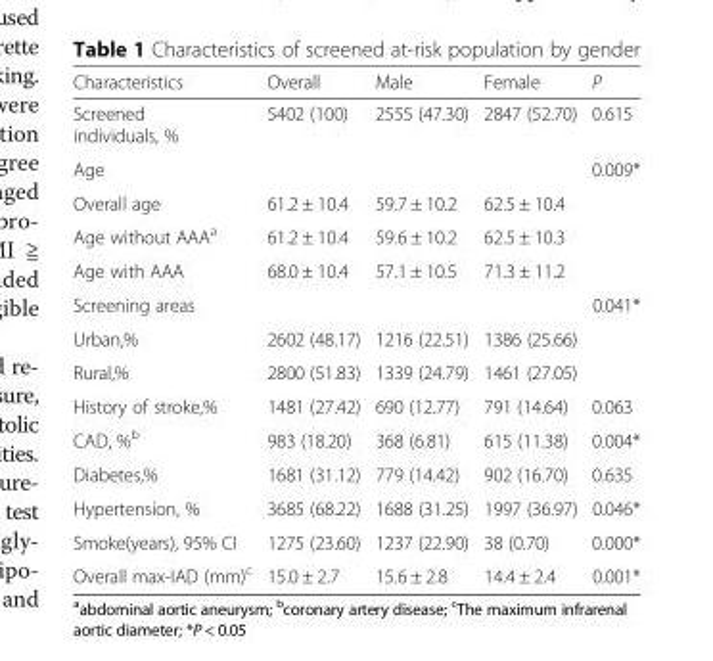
<table><thead><tr><td>Characteristics</td><td>Overall</td><td>Male</td><td>Female</td><td>P</td></tr></thead><tbody><tr><td>Screened individuals, %</td><td>5402 (100)</td><td>2555 (47.30)</td><td>2847 (52.70)</td><td>0.615</td></tr><tr><td>Age</td><td></td><td></td><td></td><td>0.009*</td></tr><tr><td>Overall age</td><td>61.2 ± 10.4</td><td>59.7 ± 10.2</td><td>62.5 ± 10.4</td><td></td></tr><tr><td>Age without AAA<sup>a</sup></td><td>61.2 ± 10.4</td><td>59.6 ± 10.2</td><td>62.5 ± 10.3</td><td></td></tr><tr><td>Age with AAA</td><td>68.0 ± 10.4</td><td>57.1 ± 10.5</td><td>71.3 ± 11.2</td><td></td></tr><tr><td>Screening areas</td><td></td><td></td><td></td><td>0.041*</td></tr><tr><td>Urban,%</td><td>2602 (48.17)</td><td>1216 (22.51)</td><td>1386 (25.66)</td><td></td></tr><tr><td>Rural,%</td><td>2800 (51.83)</td><td>1339 (24.79)</td><td>1461 (27.05)</td><td></td></tr><tr><td>History of stroke,%</td><td>1481 (27.42)</td><td>690 (12.77)</td><td>791 (14.64)</td><td>0.063</td></tr><tr><td>CAD, %<sup>b</sup></td><td>983 (18.20)</td><td>368 (6.81)</td><td>615 (11.38)</td><td>0.004*</td></tr><tr><td>Diabetes,%</td><td>1681 (31.12)</td><td>779 (14.42)</td><td>902 (16.70)</td><td>0.635</td></tr><tr><td>Hypertension, %</td><td>3685 (68.22)</td><td>1688 (31.25)</td><td>1997 (36.97)</td><td>0.046*</td></tr><tr><td>Smoke(years), 95% CI</td><td>1275 (23.60)</td><td>1237 (22.90)</td><td>38 (0.70)</td><td>0.000*</td></tr><tr><td>Overall max-IAD (mm)<sup>c</sup></td><td>15.0 ± 2.7</td><td>15.6 ± 2.8</td><td>14.4 ± 2.4</td><td>0.001*</td></tr></tbody></table>